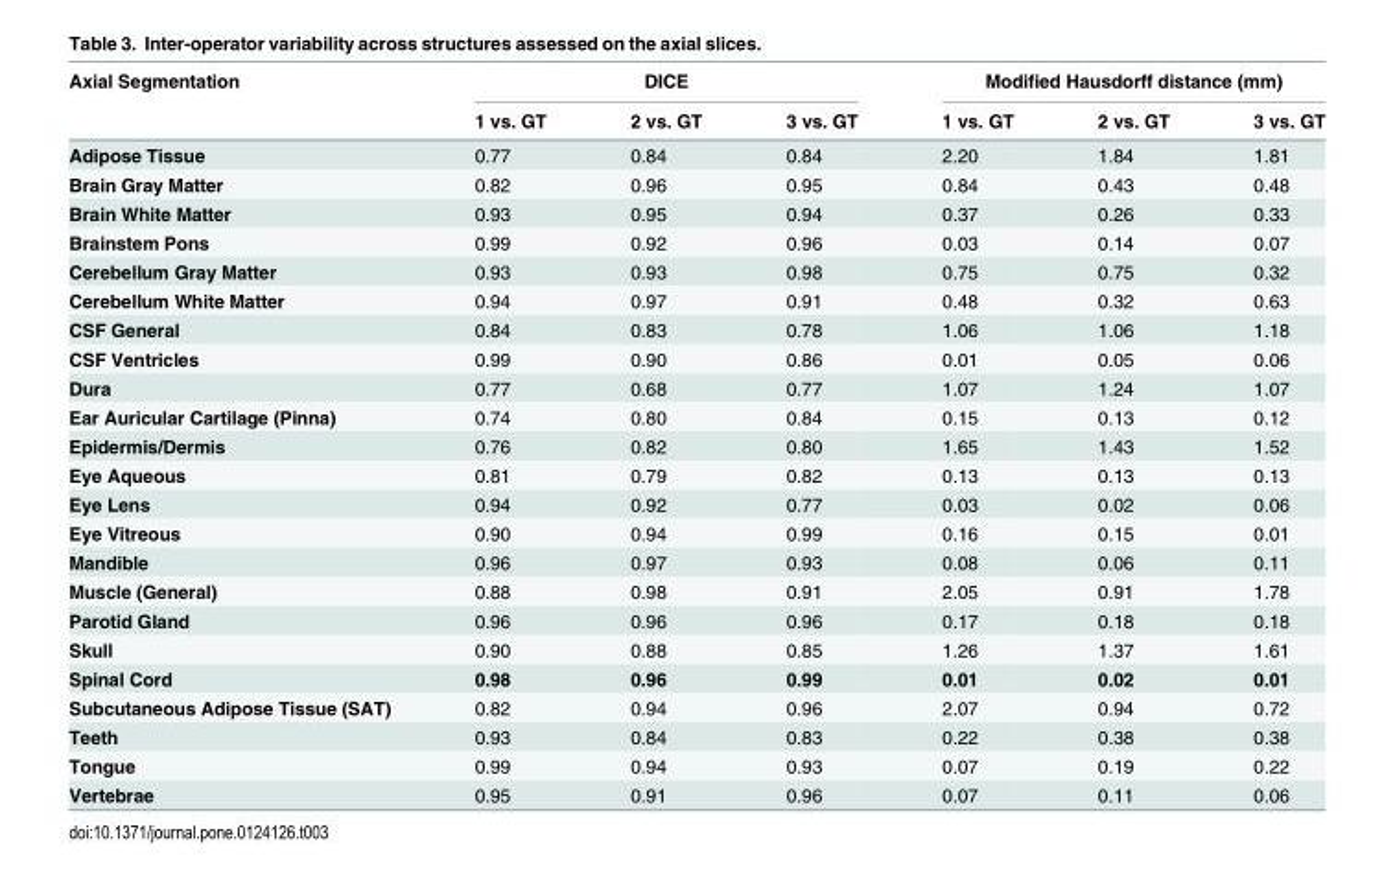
<table><thead><tr><td rowspan="2">Axial Segmentation</td><td colspan="3">DICE</td><td colspan="3">Modified Hausdorff distance (mm)</td></tr><tr><td>1 vs. GT</td><td>2 vs. GT</td><td>3 vs. GT</td><td>1 vs. GT</td><td>2 vs. GT</td><td>3 vs. GT</td></tr></thead><tbody><tr><td>Adipose Tissue</td><td>0.77</td><td>0.84</td><td>0.84</td><td>2.20</td><td>1.84</td><td>1.81</td></tr><tr><td>Brain Gray Matter</td><td>0.82</td><td>0.96</td><td>0.95</td><td>0.84</td><td>0.43</td><td>0.48</td></tr><tr><td>Brain White Matter</td><td>0.93</td><td>0.95</td><td>0.94</td><td>0.37</td><td>0.26</td><td>0.33</td></tr><tr><td>Brainstem Pons</td><td>0.99</td><td>0.92</td><td>0.96</td><td>0.03</td><td>0.14</td><td>0.07</td></tr><tr><td>Cerebellum Gray Matter</td><td>0.93</td><td>0.93</td><td>0.98</td><td>0.75</td><td>0.75</td><td>0.32</td></tr><tr><td>Cerebellum White Matter</td><td>0.94</td><td>0.97</td><td>0.91</td><td>0.48</td><td>0.32</td><td>0.63</td></tr><tr><td>CSF General</td><td>0.84</td><td>0.83</td><td>0.78</td><td>1.06</td><td>1.06</td><td>1.18</td></tr><tr><td>CSF Ventricles</td><td>0.99</td><td>0.90</td><td>0.86</td><td>0.01</td><td>0.05</td><td>0.06</td></tr><tr><td>Dura</td><td>0.77</td><td>0.68</td><td>0.77</td><td>1.07</td><td>1.24</td><td>1.07</td></tr><tr><td>Ear Auricular Cartilage (Pinna)</td><td>0.74</td><td>0.80</td><td>0.84</td><td>0.15</td><td>0.13</td><td>0.12</td></tr><tr><td>Epidermis/Dermis</td><td>0.76</td><td>0.82</td><td>0.80</td><td>1.65</td><td>1.43</td><td>1.52</td></tr><tr><td>Eye Aqueous</td><td>0.81</td><td>0.79</td><td>0.82</td><td>0.13</td><td>0.13</td><td>0.13</td></tr><tr><td>Eye Lens</td><td>0.94</td><td>0.92</td><td>0.77</td><td>0.03</td><td>0.02</td><td>0.06</td></tr><tr><td>Eye Vitreous</td><td>0.90</td><td>0.94</td><td>0.99</td><td>0.16</td><td>0.15</td><td>0.01</td></tr><tr><td>Mandible</td><td>0.96</td><td>0.97</td><td>0.93</td><td>0.08</td><td>0.06</td><td>0.11</td></tr><tr><td>Muscle (General)</td><td>0.88</td><td>0.98</td><td>0.91</td><td>2.05</td><td>0.91</td><td>1.78</td></tr><tr><td>Parotid Gland</td><td>0.96</td><td>0.96</td><td>0.96</td><td>0.17</td><td>0.18</td><td>0.18</td></tr><tr><td>Skull</td><td>0.90</td><td>0.88</td><td>0.85</td><td>1.26</td><td>1.37</td><td>1.61</td></tr><tr><td>Spinal Cord</td><td>0.98</td><td>0.96</td><td>0.99</td><td>0.01</td><td>0.02</td><td>0.01</td></tr><tr><td>Subcutaneous Adipose Tissue (SAT)</td><td>0.82</td><td>0.94</td><td>0.96</td><td>2.07</td><td>0.94</td><td>0.72</td></tr><tr><td>Teeth</td><td>0.93</td><td>0.84</td><td>0.83</td><td>0.22</td><td>0.38</td><td>0.38</td></tr><tr><td>Tongue</td><td>0.99</td><td>0.94</td><td>0.93</td><td>0.07</td><td>0.19</td><td>0.22</td></tr><tr><td>Vertebrae</td><td>0.95</td><td>0.91</td><td>0.96</td><td>0.07</td><td>0.11</td><td>0.06</td></tr></tbody></table>